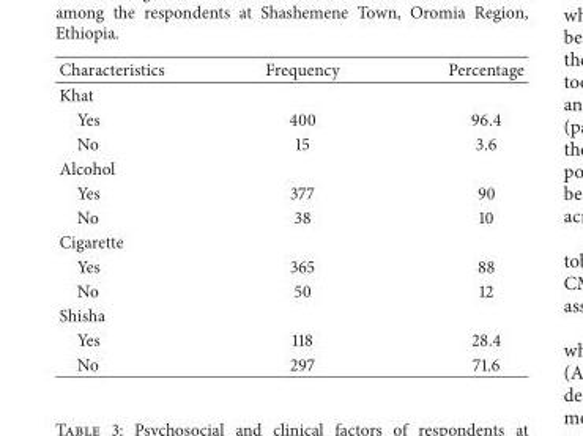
<table><thead><tr><td>Characteristics</td><td>Frequency</td><td>Percentage</td></tr></thead><tbody><tr><td colspan="3">Khat</td></tr><tr><td>Yes</td><td>400</td><td>96.4</td></tr><tr><td>No</td><td>15</td><td>3.6</td></tr><tr><td colspan="3">Alcohol</td></tr><tr><td>Yes</td><td>377</td><td>90</td></tr><tr><td>No</td><td>38</td><td>10</td></tr><tr><td colspan="3">Cigarette</td></tr><tr><td>Yes</td><td>365</td><td>88</td></tr><tr><td>No</td><td>50</td><td>12</td></tr><tr><td colspan="3">Shisha</td></tr><tr><td>Yes</td><td>118</td><td>28.4</td></tr><tr><td>No</td><td>297</td><td>71.6</td></tr></tbody></table>